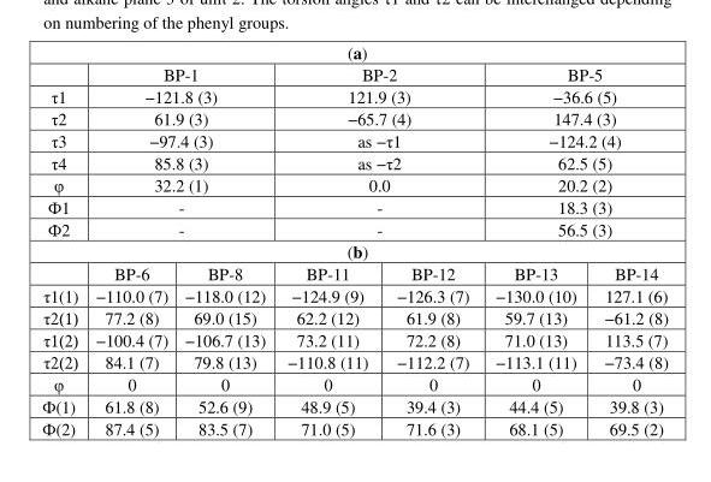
<table><thead><tr><td colspan="7">(a)</td></tr><tr><td></td><td colspan="2">BP-1</td><td colspan="2">BP-2</td><td colspan="2">BP-5</td></tr></thead><tbody><tr><td>τ1</td><td colspan="2">−121.8 (3)</td><td colspan="2">121.9 (3)</td><td colspan="2">−36.6 (5)</td></tr><tr><td>τ2</td><td colspan="2">61.9 (3)</td><td colspan="2">−65.7 (4)</td><td colspan="2">147.4 (3)</td></tr><tr><td>τ3</td><td colspan="2">−97.4 (3)</td><td colspan="2">as −τ1</td><td colspan="2">−124.2 (4)</td></tr><tr><td>τ4</td><td colspan="2">85.8 (3)</td><td colspan="2">as −τ2</td><td colspan="2">62.5 (5)</td></tr><tr><td>φ</td><td colspan="2">32.2 (1)</td><td colspan="2">0.0</td><td colspan="2">20.2 (2)</td></tr><tr><td>Ф1</td><td colspan="2">-</td><td colspan="2">-</td><td colspan="2">18.3 (3)</td></tr><tr><td>Ф2</td><td colspan="2">-</td><td colspan="2">-</td><td colspan="2">56.5 (3)</td></tr><tr><td colspan="7">(b)</td></tr><tr><td></td><td>BP-6</td><td>BP-8</td><td>BP-11</td><td>BP-12</td><td>BP-13</td><td>BP-14</td></tr><tr><td>τ1(1)</td><td>−110.0 (7)</td><td>−118.0 (12)</td><td>−124.9 (9)</td><td>−126.3 (7)</td><td>−130.0 (10)</td><td>127.1 (6)</td></tr><tr><td>τ2(1)</td><td>77.2 (8)</td><td>69.0 (15)</td><td>62.2 (12)</td><td>61.9 (8)</td><td>59.7 (13)</td><td>−61.2 (8)</td></tr><tr><td>τ1(2)</td><td>−100.4 (7)</td><td>−106.7 (13)</td><td>73.2 (11)</td><td>72.2 (8)</td><td>71.0 (13)</td><td>113.5 (7)</td></tr><tr><td>τ2(2)</td><td>84.1 (7)</td><td>79.8 (13)</td><td>−110.8 (11)</td><td>−112.2 (7)</td><td>−113.1 (11)</td><td>−73.4 (8)</td></tr><tr><td>φ</td><td>0</td><td>0</td><td>0</td><td>0</td><td>0</td><td>0</td></tr><tr><td>Ф(1)</td><td>61.8 (8)</td><td>52.6 (9)</td><td>48.9 (5)</td><td>39.4 (3)</td><td>44.4 (5)</td><td>39.8 (3)</td></tr><tr><td>Ф(2)</td><td>87.4 (5)</td><td>83.5 (7)</td><td>71.0 (5)</td><td>71.6 (3)</td><td>68.1 (5)</td><td>69.5 (2)</td></tr></tbody></table>